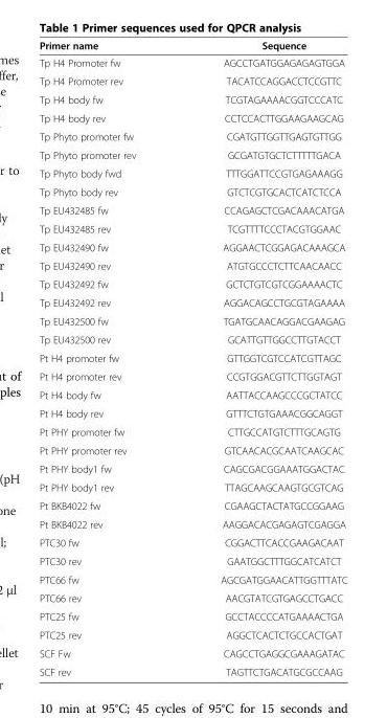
<table><thead><tr><td>Primer name</td><td>Sequence</td></tr></thead><tbody><tr><td>Tp H4 Promoter fw</td><td>AGCCTGATGGAGAGAGTGGA</td></tr><tr><td>Tp H4 Promoter rev</td><td>TACATCCAGGACCTCCGTTC</td></tr><tr><td>Tp H4 body fw</td><td>TCGTAGAAAACGGTCCCATC</td></tr><tr><td>Tp H4 body rev</td><td>CCTCCACTTGGAAGAAGCAG</td></tr><tr><td>Tp Phyto promoter fw</td><td>CGATGTTGGTTGAGTGTTGG</td></tr><tr><td>Tp Phyto promoter rev</td><td>GCGATGTGCTCTTTTTGACA</td></tr><tr><td>Tp Phyto body fwd</td><td>TTTGGATTCCGTGAGAAAGG</td></tr><tr><td>Tp Phyto body rev</td><td>GTCTCGTGCACTCATCTCCA</td></tr><tr><td>Tp EU432485 fw</td><td>CCAGAGCTCGACAAACATGA</td></tr><tr><td>Tp EU432485 rev</td><td>TCGTTTTCCCTACGTGGAAC</td></tr><tr><td>Tp EU432490 fw</td><td>AGGAACTCGGAGACAAAGCA</td></tr><tr><td>Tp EU432490 rev</td><td>ATGTGCCCTCTTCAACAACC</td></tr><tr><td>Tp EU432492 fw</td><td>GCTCTGTCGTCGGAAAACTC</td></tr><tr><td>Tp EU432492 rev</td><td>AGGACAGCCTGCGTAGAAAA</td></tr><tr><td>Tp EU432500 fw</td><td>TGATGCAACAGGACGAAGAG</td></tr><tr><td>Tp EU432500 rev</td><td>GCATTGTTGGCCTTGTACCT</td></tr><tr><td>Pt H4 promoter fw</td><td>GTTGGTCGTCCATCGTTAGC</td></tr><tr><td>Pt H4 promoter rev</td><td>CCGTGGACGTTCTTGGTAGT</td></tr><tr><td>Pt H4 body fw</td><td>AATTACCAAGCCCGCTATCC</td></tr><tr><td>Pt H4 body rev</td><td>GTTTCTGTGAAACGGCAGGT</td></tr><tr><td>Pt PHY promoter fw</td><td>CTTGCCATGTCTTTGCAGTG</td></tr><tr><td>Pt PHY promoter rev</td><td>GTCAACACGCAATCAAGCAC</td></tr><tr><td>Pt PHY body1 fw</td><td>CAGCGACGGAAATGGACTAC</td></tr><tr><td>Pt PHY body1 rev</td><td>TTAGCAAGCAAGTGCGTCAG</td></tr><tr><td>Pt BKB4022 fw</td><td>CGAAGCTACTATGCCGGAAG</td></tr><tr><td>Pt BKB4022 rev</td><td>AAGGACACGAGAGTCGAGGA</td></tr><tr><td>PTC30 fw</td><td>CGGACTTCACCGAAGACAAT</td></tr><tr><td>PTC30 rev</td><td>GAATGGCTTTGGCATCATCT</td></tr><tr><td>PTC66 fw</td><td>AGCGATGGAACATTGGTTTATC</td></tr><tr><td>PTC66 rev</td><td>AACGTATCGTGAGCCTGACC</td></tr><tr><td>PTC25 fw</td><td>GCCTACCCCATGAAAACTGA</td></tr><tr><td>PTC25 rev</td><td>AGGCTCACTCTGCCACTGAT</td></tr><tr><td>SCF Fw</td><td>CAGCCTGAGGCGAAAGATAC</td></tr><tr><td>SCF rev</td><td>TAGTTCTGACATGCGCCAAG</td></tr></tbody></table>